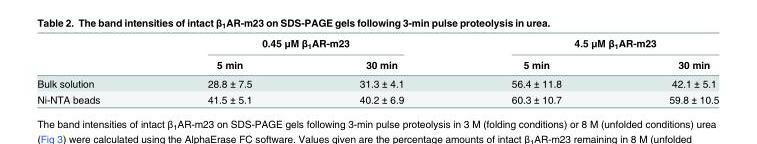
<table><thead><tr><td rowspan="2"></td><td colspan="2">0.45 μM β<sub>1</sub>AR-m23</td><td colspan="2">4.5 μM β<sub>1</sub>AR-m23</td></tr><tr><td>5 min</td><td>30 min</td><td>5 min</td><td>30 min</td></tr></thead><tbody><tr><td>Bulk solution</td><td>28.8 ± 7.5</td><td>31.3 ± 4.1</td><td>56.4 ± 11.8</td><td>42.1 ± 5.1</td></tr><tr><td>Ni-NTA beads</td><td>41.5 ± 5.1</td><td>40.2 ± 6.9</td><td>60.3 ± 10.7</td><td>59.8 ± 10.5</td></tr></tbody></table>